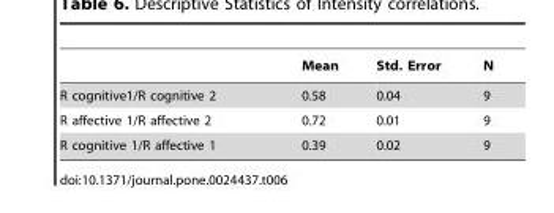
<table><thead><tr><td></td><td>Mean</td><td>Std. Error</td><td>N</td></tr></thead><tbody><tr><td>R cognitive1/R cognitive 2</td><td>0.58</td><td>0.04</td><td>9</td></tr><tr><td>R affective 1/R affective 2</td><td>0.72</td><td>0.01</td><td>9</td></tr><tr><td>R cognitive 1/R affective 1</td><td>0.39</td><td>0.02</td><td>9</td></tr></tbody></table>